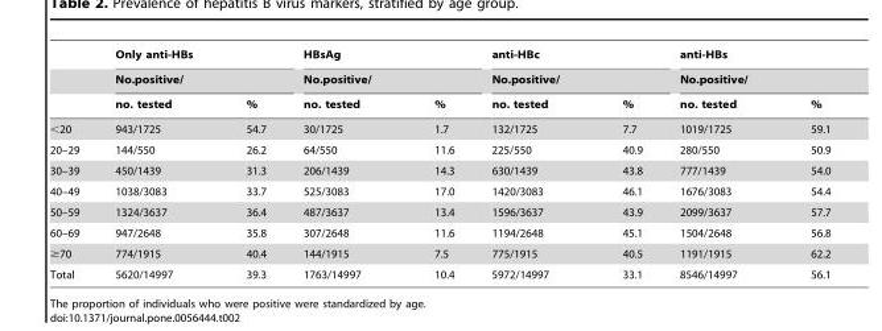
<table><thead><tr><td rowspan="3"></td><td rowspan="2" colspan="2">Only anti-HBs No.positive/</td><td rowspan="2" colspan="2">HBsAg No.positive/</td><td rowspan="2" colspan="2">anti-HBc No.positive/</td><td rowspan="2" colspan="2">anti-HBs No.positive/</td></tr><tr></tr><tr><td>no. tested</td><td>%</td><td>no. tested</td><td>%</td><td>no. tested</td><td>%</td><td>no. tested</td><td>%</td></tr></thead><tbody><tr><td>&lt;20</td><td>943/1725</td><td>54.7</td><td>30/1725</td><td>1.7</td><td>132/1725</td><td>7.7</td><td>1019/1725</td><td>59.1</td></tr><tr><td>20–29</td><td>144/550</td><td>26.2</td><td>64/550</td><td>11.6</td><td>225/550</td><td>40.9</td><td>280/550</td><td>50.9</td></tr><tr><td>30–39</td><td>450/1439</td><td>31.3</td><td>206/1439</td><td>14.3</td><td>630/1439</td><td>43.8</td><td>777/1439</td><td>54.0</td></tr><tr><td>40–49</td><td>1038/3083</td><td>33.7</td><td>525/3083</td><td>17.0</td><td>1420/3083</td><td>46.1</td><td>1676/3083</td><td>54.4</td></tr><tr><td>50–59</td><td>1324/3637</td><td>36.4</td><td>487/3637</td><td>13.4</td><td>1596/3637</td><td>43.9</td><td>2099/3637</td><td>57.7</td></tr><tr><td>60–69</td><td>947/2648</td><td>35.8</td><td>307/2648</td><td>11.6</td><td>1194/2648</td><td>45.1</td><td>1504/2648</td><td>56.8</td></tr><tr><td>≥70</td><td>774/1915</td><td>40.4</td><td>144/1915</td><td>7.5</td><td>775/1915</td><td>40.5</td><td>1191/1915</td><td>62.2</td></tr><tr><td>Total</td><td>5620/14997</td><td>39.3</td><td>1763/14997</td><td>10.4</td><td>5972/14997</td><td>33.1</td><td>8546/14997</td><td>56.1</td></tr></tbody></table>